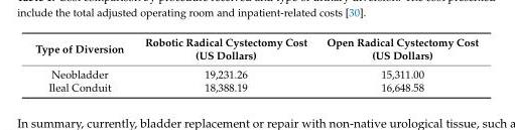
<table><thead><tr><td>Type of Diversion</td><td>Robotic Radical Cystectomy Cost (US Dollars)</td><td>Open Radical Cystectomy Cost (US Dollars)</td></tr></thead><tbody><tr><td>Neobladder</td><td>19,231.26</td><td>15,311.00</td></tr><tr><td>Ileal Conduit</td><td>18,388.19</td><td>16,648.58</td></tr></tbody></table>